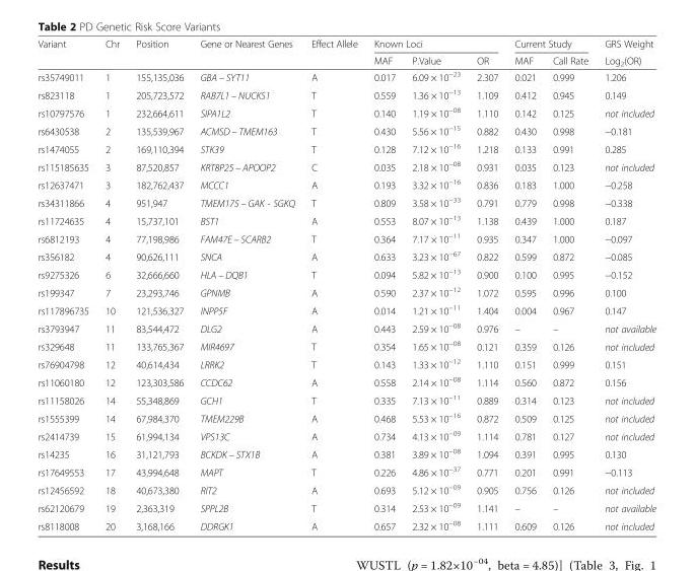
<table><thead><tr><td rowspan="2">Variant</td><td rowspan="2">Chr</td><td rowspan="2">Position</td><td rowspan="2">Gene or Nearest Genes</td><td rowspan="2">Effect Allele</td><td colspan="3">Known Loci</td><td colspan="2">Current Study</td><td rowspan="2">GRS Weight Log<sub>2</sub>(OR)</td></tr><tr><td>MAF</td><td>P.Value</td><td>OR</td><td>MAF</td><td>Call Rate</td></tr></thead><tbody><tr><td>rs35749011</td><td>1</td><td>155,135,036</td><td>GBA – SYT11</td><td>A</td><td>0.017</td><td>6.09 × 10<sup>−23</sup></td><td>2.307</td><td>0.021</td><td>0.999</td><td>1.206</td></tr><tr><td>rs823118</td><td>1</td><td>205,723,572</td><td>RAB7L1 – NUCKS1</td><td>T</td><td>0.559</td><td>1.36 × 10<sup>−13</sup></td><td>1.109</td><td>0.412</td><td>0.945</td><td>0.149</td></tr><tr><td>rs10797576</td><td>1</td><td>232,664,611</td><td>SIPA1L2</td><td>T</td><td>0.140</td><td>1.19 × 10<sup>−08</sup></td><td>1.110</td><td>0.142</td><td>0.125</td><td>not included</td></tr><tr><td>rs6430538</td><td>2</td><td>135,539,967</td><td>ACMSD – TMEM163</td><td>T</td><td>0.430</td><td>5.56 × 10<sup>−15</sup></td><td>0.882</td><td>0.430</td><td>0.998</td><td>−0.181</td></tr><tr><td>rs1474055</td><td>2</td><td>169,110,394</td><td>STK39</td><td>T</td><td>0.128</td><td>7.12 × 10<sup>−16</sup></td><td>1.218</td><td>0.133</td><td>0.991</td><td>0.285</td></tr><tr><td>rs115185635</td><td>3</td><td>87,520,857</td><td>KRT8P25 – APOOP2</td><td>C</td><td>0.035</td><td>2.18 × 10<sup>−08</sup></td><td>0.931</td><td>0.035</td><td>0.123</td><td>not included</td></tr><tr><td>rs12637471</td><td>3</td><td>182,762,437</td><td>MCCC1</td><td>A</td><td>0.193</td><td>3.32 × 10<sup>−16</sup></td><td>0.836</td><td>0.183</td><td>1.000</td><td>−0.258</td></tr><tr><td>rs34311866</td><td>4</td><td>951,947</td><td>TMEM175 – GAK - SGKQ</td><td>T</td><td>0.809</td><td>3.58 × 10<sup>−33</sup></td><td>0.791</td><td>0.779</td><td>0.998</td><td>−0.338</td></tr><tr><td>rs11724635</td><td>4</td><td>15,737,101</td><td>BST1</td><td>A</td><td>0.553</td><td>8.07 × 10<sup>−13</sup></td><td>1.138</td><td>0.439</td><td>1.000</td><td>0.187</td></tr><tr><td>rs6812193</td><td>4</td><td>77,198,986</td><td>FAM47E – SCARB2</td><td>T</td><td>0.364</td><td>7.17 × 10<sup>−11</sup></td><td>0.935</td><td>0.347</td><td>1.000</td><td>−0.097</td></tr><tr><td>rs356182</td><td>4</td><td>90,626,111</td><td>SNCA</td><td>A</td><td>0.633</td><td>3.23 × 10<sup>−67</sup></td><td>0.822</td><td>0.599</td><td>0.872</td><td>−0.085</td></tr><tr><td>rs9275326</td><td>6</td><td>32,666,660</td><td>HLA – DQB1</td><td>T</td><td>0.094</td><td>5.82 × 10<sup>−13</sup></td><td>0.900</td><td>0.100</td><td>0.995</td><td>−0.152</td></tr><tr><td>rs199347</td><td>7</td><td>23,293,746</td><td>GPNMB</td><td>A</td><td>0.590</td><td>2.37 × 10<sup>−12</sup></td><td>1.072</td><td>0.595</td><td>0.996</td><td>0.100</td></tr><tr><td>rs117896735</td><td>10</td><td>121,536,327</td><td>INPP5F</td><td>A</td><td>0.014</td><td>1.21 × 10<sup>−11</sup></td><td>1.404</td><td>0.004</td><td>0.967</td><td>0.147</td></tr><tr><td>rs3793947</td><td>11</td><td>83,544,472</td><td>DLG2</td><td>A</td><td>0.443</td><td>2.59 × 10<sup>−08</sup></td><td>0.976</td><td>–</td><td>–</td><td>not available</td></tr><tr><td>rs329648</td><td>11</td><td>133,765,367</td><td>MIR4697</td><td>T</td><td>0.354</td><td>1.65 × 10<sup>−08</sup></td><td>0.121</td><td>0.359</td><td>0.126</td><td>not included</td></tr><tr><td>rs76904798</td><td>12</td><td>40,614,434</td><td>LRRK2</td><td>T</td><td>0.143</td><td>1.33 × 10<sup>−12</sup></td><td>1.110</td><td>0.151</td><td>0.999</td><td>0.151</td></tr><tr><td>rs11060180</td><td>12</td><td>123,303,586</td><td>CCDC62</td><td>A</td><td>0.558</td><td>2.14 × 10<sup>−08</sup></td><td>1.114</td><td>0.560</td><td>0.872</td><td>0.156</td></tr><tr><td>rs11158026</td><td>14</td><td>55,348,869</td><td>GCH1</td><td>T</td><td>0.335</td><td>7.13 × 10<sup>−11</sup></td><td>0.889</td><td>0.314</td><td>0.123</td><td>not included</td></tr><tr><td>rs1555399</td><td>14</td><td>67,984,370</td><td>TMEM229B</td><td>A</td><td>0.468</td><td>5.53 × 10<sup>−16</sup></td><td>0.872</td><td>0.509</td><td>0.125</td><td>not included</td></tr><tr><td>rs2414739</td><td>15</td><td>61,994,134</td><td>VPS13C</td><td>A</td><td>0.734</td><td>4.13 × 10<sup>−09</sup></td><td>1.114</td><td>0.781</td><td>0.127</td><td>not included</td></tr><tr><td>rs14235</td><td>16</td><td>31,121,793</td><td>BCKDK – STX1B</td><td>A</td><td>0.381</td><td>3.89 × 10<sup>−08</sup></td><td>1.094</td><td>0.391</td><td>0.995</td><td>0.130</td></tr><tr><td>rs17649553</td><td>17</td><td>43,994,648</td><td>MAPT</td><td>T</td><td>0.226</td><td>4.86 × 10<sup>−37</sup></td><td>0.771</td><td>0.201</td><td>0.991</td><td>−0.113</td></tr><tr><td>rs12456592</td><td>18</td><td>40,673,380</td><td>RIT2</td><td>A</td><td>0.693</td><td>5.12 × 10<sup>−09</sup></td><td>0.905</td><td>0.756</td><td>0.126</td><td>not included</td></tr><tr><td>rs62120679</td><td>19</td><td>2,363,319</td><td>SPPL2B</td><td>T</td><td>0.314</td><td>2.53 × 10<sup>−09</sup></td><td>1.141</td><td>–</td><td>–</td><td>not available</td></tr><tr><td>rs8118008</td><td>20</td><td>3,168,166</td><td>DDRGK1</td><td>A</td><td>0.657</td><td>2.32 × 10<sup>−08</sup></td><td>1.111</td><td>0.609</td><td>0.126</td><td>not included</td></tr></tbody></table>